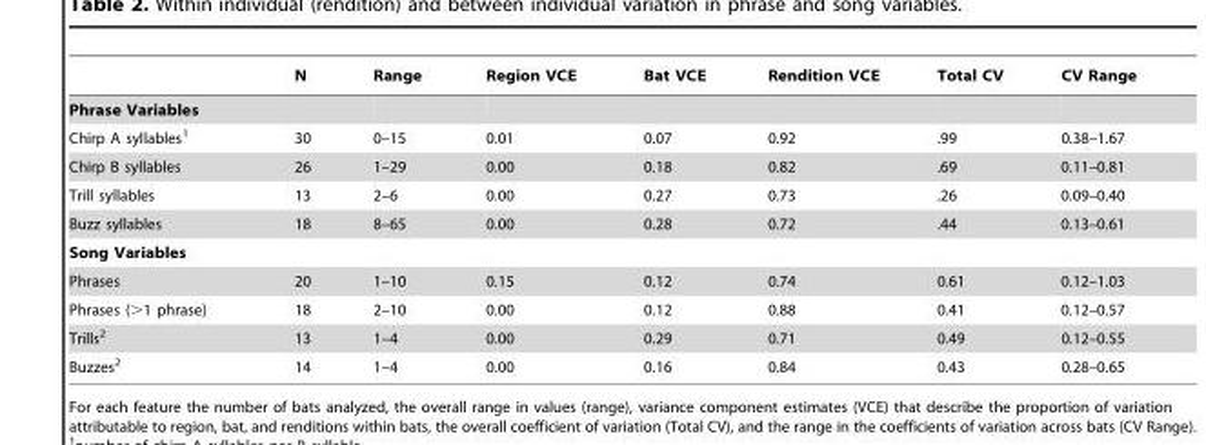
<table><thead><tr><td></td><td>N</td><td>Range</td><td>Region VCE</td><td>Bat VCE</td><td>Rendition VCE</td><td>Total CV</td><td>CV Range</td></tr></thead><tbody><tr><td colspan="8">Phrase Variables</td></tr><tr><td>Chirp A syllables<sup>1</sup></td><td>30</td><td>0–15</td><td>0.01</td><td>0.07</td><td>0.92</td><td>.99</td><td>0.38–1.67</td></tr><tr><td>Chirp B syllables</td><td>26</td><td>1–29</td><td>0.00</td><td>0.18</td><td>0.82</td><td>.69</td><td>0.11–0.81</td></tr><tr><td>Trill syllables</td><td>13</td><td>2–6</td><td>0.00</td><td>0.27</td><td>0.73</td><td>.26</td><td>0.09–0.40</td></tr><tr><td>Buzz syllables</td><td>18</td><td>8–65</td><td>0.00</td><td>0.28</td><td>0.72</td><td>.44</td><td>0.13–0.61</td></tr><tr><td colspan="8">Song Variables</td></tr><tr><td>Phrases</td><td>20</td><td>1–10</td><td>0.15</td><td>0.12</td><td>0.74</td><td>0.61</td><td>0.12–1.03</td></tr><tr><td>Phrases (&gt;1 phrase)</td><td>18</td><td>2–10</td><td>0.00</td><td>0.12</td><td>0.88</td><td>0.41</td><td>0.12–0.57</td></tr><tr><td>Trills<sup>2</sup></td><td>13</td><td>1–4</td><td>0.00</td><td>0.29</td><td>0.71</td><td>0.49</td><td>0.12–0.55</td></tr><tr><td>Buzzes<sup>2</sup></td><td>14</td><td>1–4</td><td>0.00</td><td>0.16</td><td>0.84</td><td>0.43</td><td>0.28–0.65</td></tr></tbody></table>